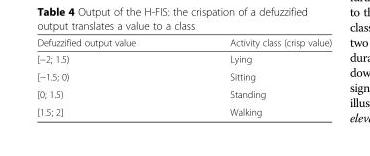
<table><thead><tr><td>Defuzzified output value</td><td>Activity class (crisp value)</td></tr></thead><tbody><tr><td>[−2; 1.5)</td><td>Lying</td></tr><tr><td>[−1.5; 0)</td><td>Sitting</td></tr><tr><td>[0; 1.5)</td><td>Standing</td></tr><tr><td>[1.5; 2]</td><td>Walking</td></tr></tbody></table>